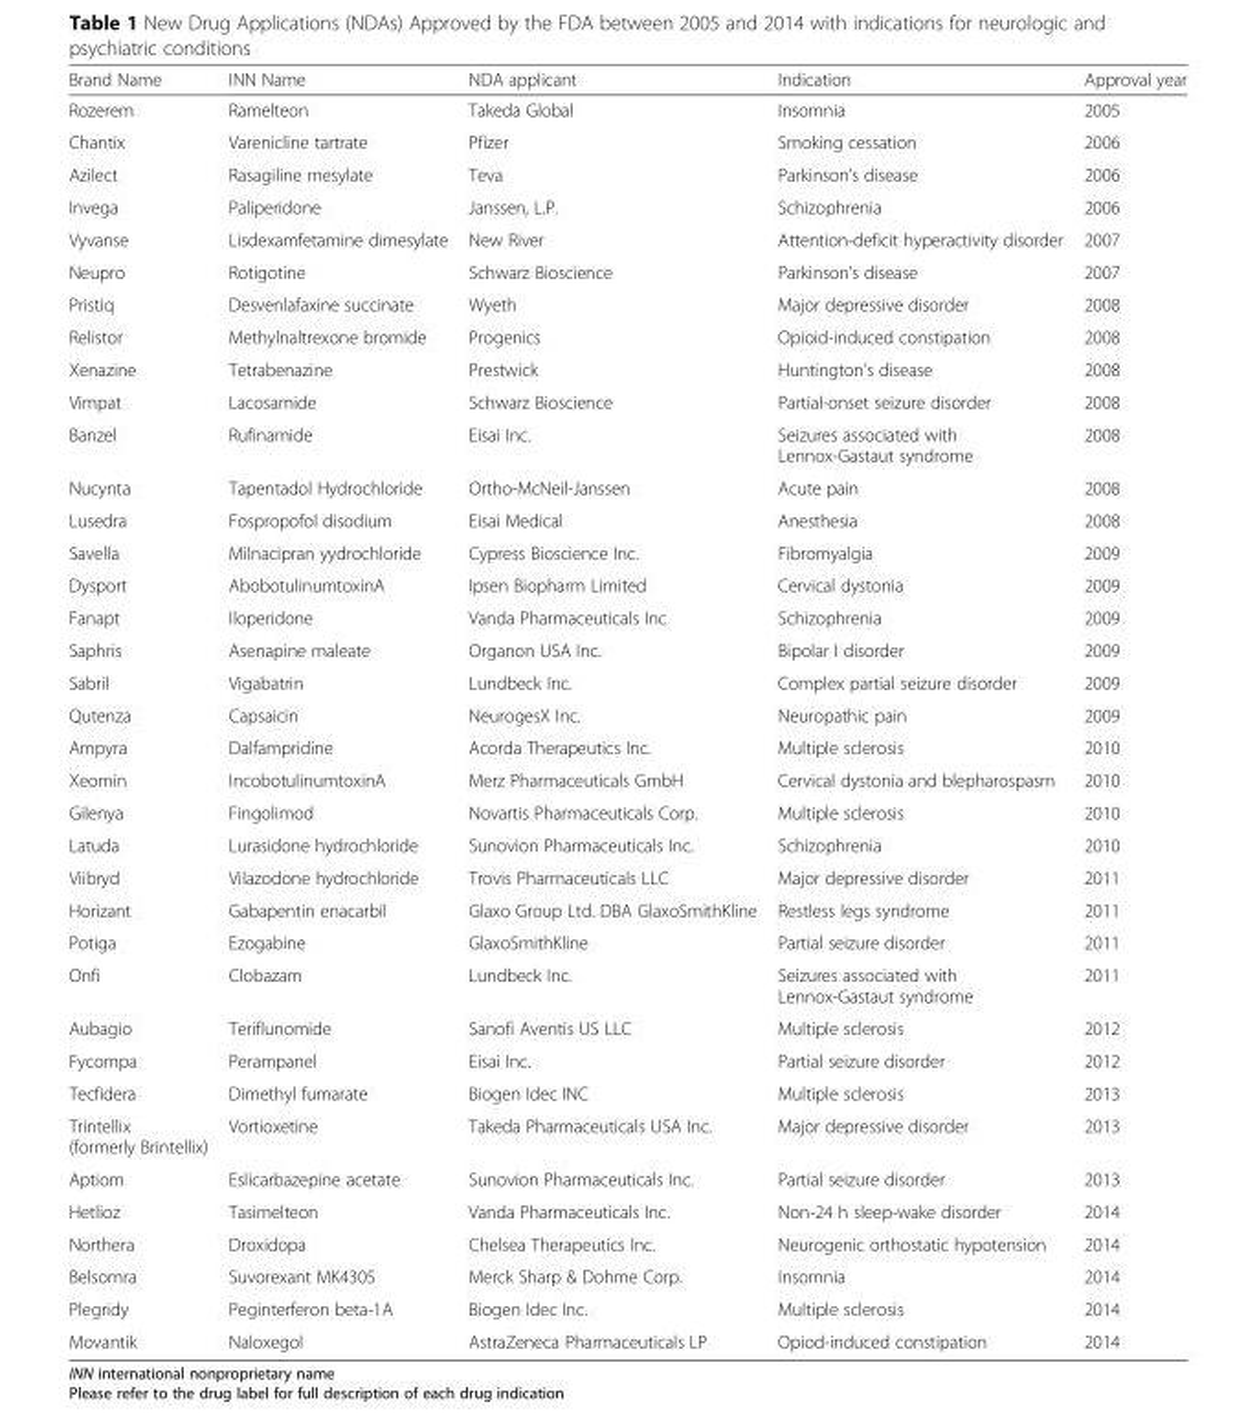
<table><thead><tr><td>Brand Name</td><td>INN Name</td><td>NDA applicant</td><td>Indication</td><td>Approval year</td></tr></thead><tbody><tr><td>Rozerem</td><td>Ramelteon</td><td>Takeda Global</td><td>Insomnia</td><td>2005</td></tr><tr><td>Chantix</td><td>Varenicline tartrate</td><td>Pfizer</td><td>Smoking cessation</td><td>2006</td></tr><tr><td>Azilect</td><td>Rasagiline mesylate</td><td>Teva</td><td>Parkinson’s disease</td><td>2006</td></tr><tr><td>Invega</td><td>Paliperidone</td><td>Janssen, L.P.</td><td>Schizophrenia</td><td>2006</td></tr><tr><td>Vyvanse</td><td>Lisdexamfetamine dimesylate</td><td>New River</td><td>Attention-deficit hyperactivity disorder</td><td>2007</td></tr><tr><td>Neupro</td><td>Rotigotine</td><td>Schwarz Bioscience</td><td>Parkinson’s disease</td><td>2007</td></tr><tr><td>Pristiq</td><td>Desvenlafaxine succinate</td><td>Wyeth</td><td>Major depressive disorder</td><td>2008</td></tr><tr><td>Relistor</td><td>Methylnaltrexone bromide</td><td>Progenics</td><td>Opioid-induced constipation</td><td>2008</td></tr><tr><td>Xenazine</td><td>Tetrabenazine</td><td>Prestwick</td><td>Huntington’s disease</td><td>2008</td></tr><tr><td>Vimpat</td><td>Lacosamide</td><td>Schwarz Bioscience</td><td>Partial-onset seizure disorder</td><td>2008</td></tr><tr><td>Banzel</td><td>Rufinamide</td><td>Eisai Inc.</td><td>Seizures associated with Lennox-Gastaut syndrome</td><td>2008</td></tr><tr><td>Nucynta</td><td>Tapentadol Hydrochloride</td><td>Ortho-McNeil-Janssen</td><td>Acute pain</td><td>2008</td></tr><tr><td>Lusedra</td><td>Fospropofol disodium</td><td>Eisai Medical</td><td>Anesthesia</td><td>2008</td></tr><tr><td>Savella</td><td>Milnacipran yydrochloride</td><td>Cypress Bioscience Inc.</td><td>Fibromyalgia</td><td>2009</td></tr><tr><td>Dysport</td><td>AbobotulinumtoxinA</td><td>Ipsen Biopharm Limited</td><td>Cervical dystonia</td><td>2009</td></tr><tr><td>Fanapt</td><td>Iloperidone</td><td>Vanda Pharmaceuticals Inc</td><td>Schizophrenia</td><td>2009</td></tr><tr><td>Saphris</td><td>Asenapine maleate</td><td>Organon USA Inc.</td><td>Bipolar I disorder</td><td>2009</td></tr><tr><td>Sabril</td><td>Vigabatrin</td><td>Lundbeck Inc.</td><td>Complex partial seizure disorder</td><td>2009</td></tr><tr><td>Qutenza</td><td>Capsaicin</td><td>NeurogesX Inc.</td><td>Neuropathic pain</td><td>2009</td></tr><tr><td>Ampyra</td><td>Dalfampridine</td><td>Acorda Therapeutics Inc.</td><td>Multiple sclerosis</td><td>2010</td></tr><tr><td>Xeomin</td><td>IncobotulinumtoxinA</td><td>Merz Pharmaceuticals GmbH</td><td>Cervical dystonia and blepharospasm</td><td>2010</td></tr><tr><td>Gilenya</td><td>Fingolimod</td><td>Novartis Pharmaceuticals Corp.</td><td>Multiple sclerosis</td><td>2010</td></tr><tr><td>Latuda</td><td>Lurasidone hydrochloride</td><td>Sunovion Pharmaceuticals Inc.</td><td>Schizophrenia</td><td>2010</td></tr><tr><td>Viibryd</td><td>Vilazodone hydrochloride</td><td>Trovis Pharmaceuticals LLC</td><td>Major depressive disorder</td><td>2011</td></tr><tr><td>Horizant</td><td>Gabapentin enacarbil</td><td>Glaxo Group Ltd. DBA GlaxoSmithKline</td><td>Restless legs syndrome</td><td>2011</td></tr><tr><td>Potiga</td><td>Ezogabine</td><td>GlaxoSmithKline</td><td>Partial seizure disorder</td><td>2011</td></tr><tr><td>Onfi</td><td>Clobazam</td><td>Lundbeck Inc.</td><td>Seizures associated with Lennox-Gastaut syndrome</td><td>2011</td></tr><tr><td>Aubagio</td><td>Teriflunomide</td><td>Sanofi Aventis US LLC</td><td>Multiple sclerosis</td><td>2012</td></tr><tr><td>Fycompa</td><td>Perampanel</td><td>Eisai Inc.</td><td>Partial seizure disorder</td><td>2012</td></tr><tr><td>Tecfidera</td><td>Dimethyl fumarate</td><td>Biogen Idec INC</td><td>Multiple sclerosis</td><td>2013</td></tr><tr><td>Trintellix (formerly Brintellix)</td><td>Vortioxetine</td><td>Takeda Pharmaceuticals USA Inc.</td><td>Major depressive disorder</td><td>2013</td></tr><tr><td>Aptiom</td><td>Eslicarbazepine acetate</td><td>Sunovion Pharmaceuticals Inc.</td><td>Partial seizure disorder</td><td>2013</td></tr><tr><td>Hetlioz</td><td>Tasimelteon</td><td>Vanda Pharmaceuticals Inc.</td><td>Non-24 h sleep-wake disorder</td><td>2014</td></tr><tr><td>Northera</td><td>Droxidopa</td><td>Chelsea Therapeutics Inc.</td><td>Neurogenic orthostatic hypotension</td><td>2014</td></tr><tr><td>Belsomra</td><td>Suvorexant MK4305</td><td>Merck Sharp &amp; Dohme Corp.</td><td>Insomnia</td><td>2014</td></tr><tr><td>Plegridy</td><td>Peginterferon beta-1A</td><td>Biogen Idec Inc.</td><td>Multiple sclerosis</td><td>2014</td></tr><tr><td>Movantik</td><td>Naloxegol</td><td>AstraZeneca Pharmaceuticals LP</td><td>Opiod-induced constipation</td><td>2014</td></tr></tbody></table>